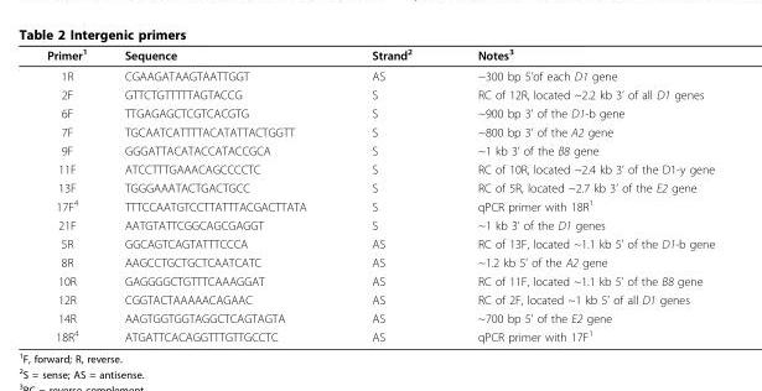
<table><thead><tr><td>Primer<sup>1</sup></td><td>Sequence</td><td>Strand<sup>2</sup></td><td>Notes<sup>3</sup></td></tr></thead><tbody><tr><td>1R</td><td>CGAAGATAAGTAATTGGT</td><td>AS</td><td>~300 bp 5’of each D1 gene</td></tr><tr><td>2F</td><td>GTTCTGTTTTTAGTACCG</td><td>S</td><td>RC of 12R, located ~2.2 kb 3’ of all D1 genes</td></tr><tr><td>6F</td><td>TTGAGAGCTCGTCACGTG</td><td>S</td><td>~900 bp 3’ of the D1-b gene</td></tr><tr><td>7F</td><td>TGCAATCATTTTACATATTACTGGTT</td><td>S</td><td>~800 bp 3’ of the A2 gene</td></tr><tr><td>9F</td><td>GGGATTACATACCATACCGCA</td><td>S</td><td>~1 kb 3’ of the B8 gene</td></tr><tr><td>11F</td><td>ATCCTTTGAAACAGCCCCTC</td><td>S</td><td>RC of 10R, located ~2.4 kb 3’ of the D1-y gene</td></tr><tr><td>13F</td><td>TGGGAAATACTGACTGCC</td><td>S</td><td>RC of 5R, located ~2.7 kb 3’ of the E2 gene</td></tr><tr><td>17F<sup>4</sup></td><td>TTTCCAATGTCCTTATTTACGACTTATA</td><td>S</td><td>qPCR primer with 18R<sup>1</sup></td></tr><tr><td>21F</td><td>AATGTATTCGGCAGCGAGGT</td><td>S</td><td>~1 kb 3’ of the D1 genes</td></tr><tr><td>5R</td><td>GGCAGTCAGTATTTCCCA</td><td>AS</td><td>RC of 13F, located ~1.1 kb 5’ of the D1-b gene</td></tr><tr><td>8R</td><td>AAGCCTGCTGCTCAATCATC</td><td>AS</td><td>~1.2 kb 5’ of the A2 gene</td></tr><tr><td>10R</td><td>GAGGGGCTGTTTCAAAGGAT</td><td>AS</td><td>RC of 11F, located ~1.1 kb 5’ of the B8 gene</td></tr><tr><td>12R</td><td>CGGTACTAAAAACAGAAC</td><td>AS</td><td>RC of 2F, located ~1 kb 5’ of all D1 genes</td></tr><tr><td>14R</td><td>AAGTGGTGGTAGGCTCAGTAGTA</td><td>AS</td><td>~700 bp 5’ of the E2 gene</td></tr><tr><td>18R<sup>4</sup></td><td>ATGATTCACAGGTTTGTTGCCTC</td><td>AS</td><td>qPCR primer with 17F<sup>1</sup></td></tr></tbody></table>